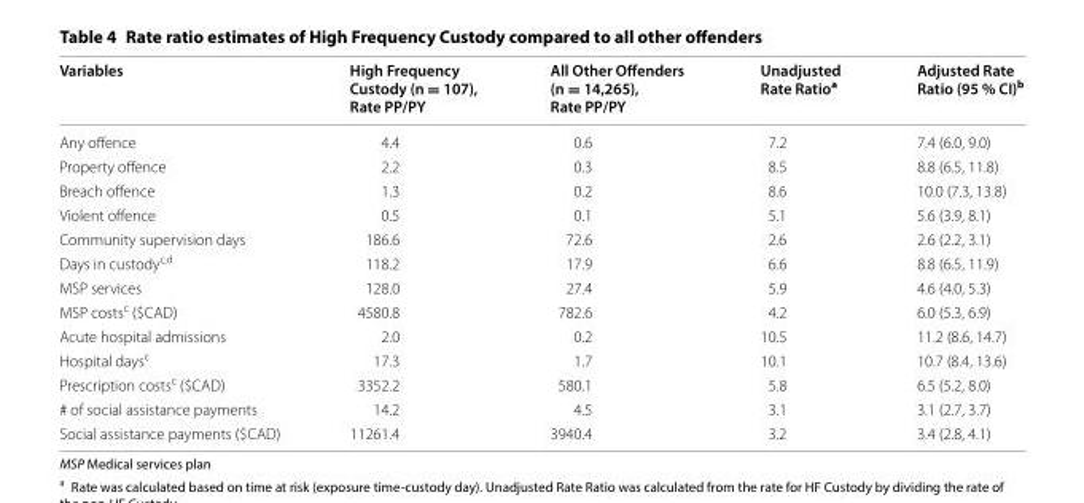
<table><thead><tr><td>Variables</td><td>High Frequency Custody (n = 107), Rate PP/PY</td><td>All Other Offenders (n = 14,265), Rate PP/PY</td><td>Unadjusted Rate Ratio<sup>a</sup></td><td>Adjusted Rate Ratio (95 % CI)<sup>b</sup></td></tr></thead><tbody><tr><td>Any offence</td><td>4.4</td><td>0.6</td><td>7.2</td><td>7.4 (6.0, 9.0)</td></tr><tr><td>Property offence</td><td>2.2</td><td>0.3</td><td>8.5</td><td>8.8 (6.5, 11.8)</td></tr><tr><td>Breach offence</td><td>1.3</td><td>0.2</td><td>8.6</td><td>10.0 (7.3, 13.8)</td></tr><tr><td>Violent offence</td><td>0.5</td><td>0.1</td><td>5.1</td><td>5.6 (3.9, 8.1)</td></tr><tr><td>Community supervision days</td><td>186.6</td><td>72.6</td><td>2.6</td><td>2.6 (2.2, 3.1)</td></tr><tr><td>Days in custody<sup>c,d</sup></td><td>118.2</td><td>17.9</td><td>6.6</td><td>8.8 (6.5, 11.9)</td></tr><tr><td>MSP services</td><td>128.0</td><td>27.4</td><td>5.9</td><td>4.6 (4.0, 5.3)</td></tr><tr><td>MSP costs<sup>c</sup> ($CAD)</td><td>4580.8</td><td>782.6</td><td>4.2</td><td>6.0 (5.3, 6.9)</td></tr><tr><td>Acute hospital admissions</td><td>2.0</td><td>0.2</td><td>10.5</td><td>11.2 (8.6, 14.7)</td></tr><tr><td>Hospital days<sup>c</sup></td><td>17.3</td><td>1.7</td><td>10.1</td><td>10.7 (8.4, 13.6)</td></tr><tr><td>Prescription costs<sup>c</sup> ($CAD)</td><td>3352.2</td><td>580.1</td><td>5.8</td><td>6.5 (5.2, 8.0)</td></tr><tr><td># of social assistance payments</td><td>14.2</td><td>4.5</td><td>3.1</td><td>3.1 (2.7, 3.7)</td></tr><tr><td>Social assistance payments ($CAD)</td><td>11261.4</td><td>3940.4</td><td>3.2</td><td>3.4 (2.8, 4.1)</td></tr></tbody></table>